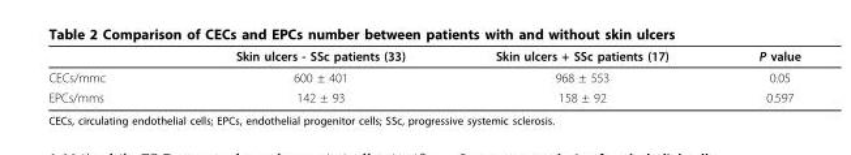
<table><thead><tr><td></td><td>Skin ulcers - SSc patients (33)</td><td>Skin ulcers + SSc patients (17)</td><td>P value</td></tr></thead><tbody><tr><td>CECs/mmc</td><td>600 ± 401</td><td>968 ± 553</td><td>0.05</td></tr><tr><td>EPCs/mms</td><td>142 ± 93</td><td>158 ± 92</td><td>0.597</td></tr></tbody></table>